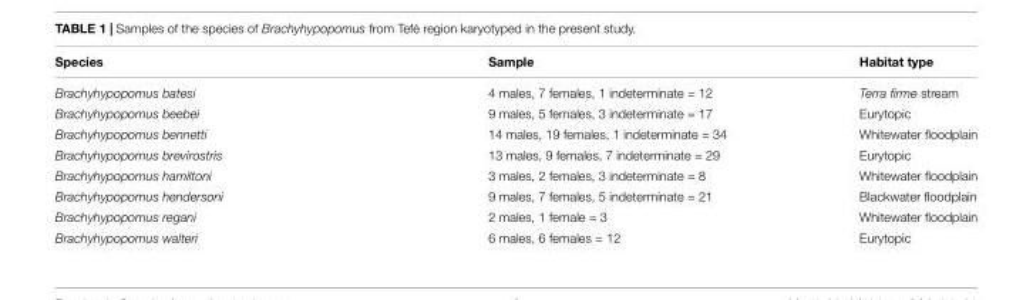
<table><thead><tr><td>Species</td><td>Sample</td><td>Habitat type</td></tr></thead><tbody><tr><td>Brachyhypopomus batesi</td><td>4 males, 7 females, 1 indeterminate = 12</td><td>Terra firme stream</td></tr><tr><td>Brachyhypopomus beebei</td><td>9 males, 5 females, 3 indeterminate = 17</td><td>Eurytopic</td></tr><tr><td>Brachyhypopomus bennetti</td><td>14 males, 19 females, 1 indeterminate = 34</td><td>Whitewater floodplain</td></tr><tr><td>Brachyhypopomus brevirostris</td><td>13 males, 9 females, 7 indeterminate = 29</td><td>Eurytopic</td></tr><tr><td>Brachyhypopomus hamiltoni</td><td>3 males, 2 females, 3 indeterminate = 8</td><td>Whitewater floodplain</td></tr><tr><td>Brachyhypopomus hendersoni</td><td>9 males, 7 females, 5 indeterminate = 21</td><td>Blackwater floodplain</td></tr><tr><td>Brachyhypopomus regani</td><td>2 males, 1 female = 3</td><td>Whitewater floodplain</td></tr><tr><td>Brachyhypopomus walteri</td><td>6 males, 6 females = 12</td><td>Eurytopic</td></tr></tbody></table>